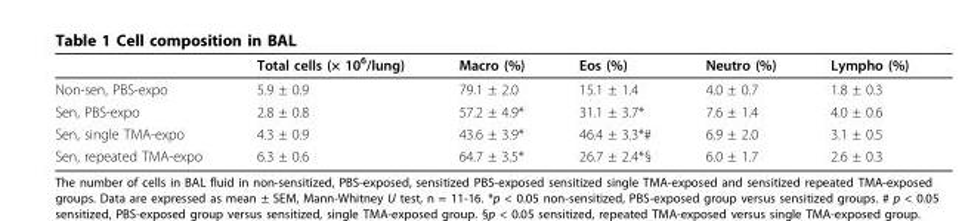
<table><thead><tr><td></td><td>Total cells (× 10<sup>6</sup>/lung)</td><td>Macro (%)</td><td>Eos (%)</td><td>Neutro (%)</td><td>Lympho (%)</td></tr></thead><tbody><tr><td>Non-sen, PBS-expo</td><td>5.9 ± 0.9</td><td>79.1 ± 2.0</td><td>15.1 ± 1.4</td><td>4.0 ± 0.7</td><td>1.8 ± 0.3</td></tr><tr><td>Sen, PBS-expo</td><td>2.8 ± 0.8</td><td>57.2 ± 4.9*</td><td>31.1 ± 3.7*</td><td>7.6 ± 1.4</td><td>4.0 ± 0.6</td></tr><tr><td>Sen, single TMA-expo</td><td>4.3 ± 0.9</td><td>43.6 ± 3.9*</td><td>46.4 ± 3.3*#</td><td>6.9 ± 2.0</td><td>3.1 ± 0.5</td></tr><tr><td>Sen, repeated TMA-expo</td><td>6.3 ± 0.6</td><td>64.7 ± 3.5*</td><td>26.7 ± 2.4*§</td><td>6.0 ± 1.7</td><td>2.6 ± 0.3</td></tr></tbody></table>